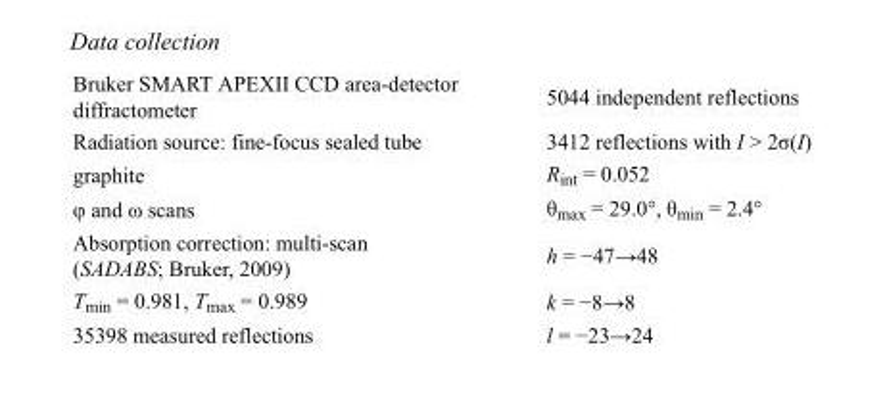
<table><tbody><tr><td>Bruker SMART APEXII CCD area-detector diffractometer</td><td>5044 independent reflections</td></tr><tr><td>Radiation source: fine-focus sealed tube</td><td>3412 reflections with I &gt; 2σ(I)</td></tr><tr><td>graphite</td><td>R<sub>int</sub> = 0.052</td></tr><tr><td>φ and ω scans</td><td>θ<sub>max</sub> = 29.0°, θ<sub>min</sub> = 2.4°</td></tr><tr><td>Absorption correction: multi-scan (SADABS; Bruker, 2009)</td><td>h = −47→48</td></tr><tr><td>T<sub>min</sub> = 0.981, T<sub>max</sub> = 0.989</td><td>k = −8→8</td></tr><tr><td>35398 measured reflections</td><td>l = −23→24</td></tr></tbody></table>